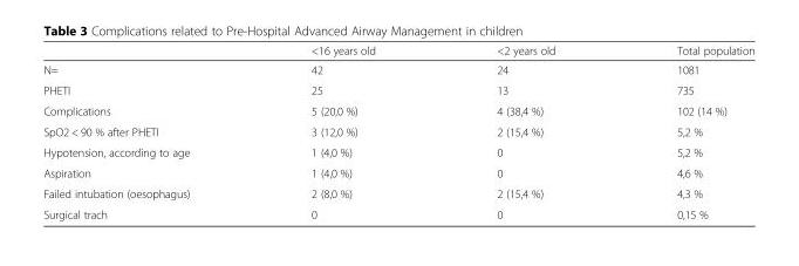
<table><thead><tr><td></td><td>&lt;16 years old</td><td>&lt;2 years old</td><td>Total population</td></tr></thead><tbody><tr><td>N=</td><td>42</td><td>24</td><td>1081</td></tr><tr><td>PHETI</td><td>25</td><td>13</td><td>735</td></tr><tr><td>Complications</td><td>5 (20,0 %)</td><td>4 (38,4 %)</td><td>102 (14 %)</td></tr><tr><td>SpO2 &lt; 90 % after PHETI</td><td>3 (12,0 %)</td><td>2 (15,4 %)</td><td>5,2 %</td></tr><tr><td>Hypotension, according to age</td><td>1 (4,0 %)</td><td>0</td><td>5,2 %</td></tr><tr><td>Aspiration</td><td>1 (4,0 %)</td><td>0</td><td>4,6 %</td></tr><tr><td>Failed intubation (oesophagus)</td><td>2 (8,0 %)</td><td>2 (15,4 %)</td><td>4,3 %</td></tr><tr><td>Surgical trach</td><td>0</td><td>0</td><td>0,15 %</td></tr></tbody></table>